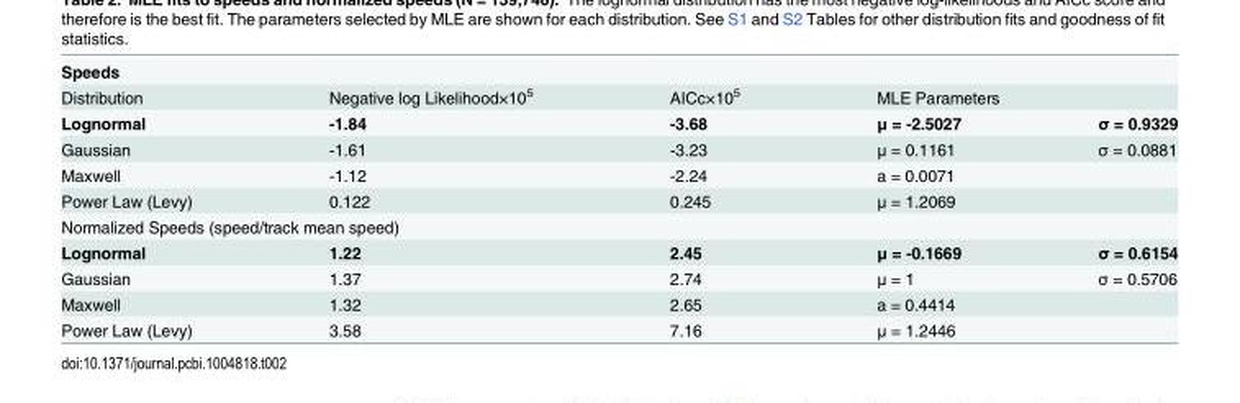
<table><tbody><tr><td colspan="5">Speeds</td></tr><tr><td>Distribution</td><td>Negative log Likelihood×10<sup>5</sup></td><td>AICc×10<sup>5</sup></td><td colspan="2">MLE Parameters</td></tr><tr><td>Lognormal</td><td>-1.84</td><td>-3.68</td><td>μ = -2.5027</td><td>σ = 0.9329</td></tr><tr><td>Gaussian</td><td>-1.61</td><td>-3.23</td><td>μ = 0.1161</td><td>σ = 0.0881</td></tr><tr><td>Maxwell</td><td>-1.12</td><td>-2.24</td><td>a = 0.0071</td><td></td></tr><tr><td>Power Law (Levy)</td><td>0.122</td><td>0.245</td><td>μ = 1.2069</td><td></td></tr><tr><td colspan="5">Normalized Speeds (speed/track mean speed)</td></tr><tr><td>Lognormal</td><td>1.22</td><td>2.45</td><td>μ = -0.1669</td><td>σ = 0.6154</td></tr><tr><td>Gaussian</td><td>1.37</td><td>2.74</td><td>μ = 1</td><td>σ = 0.5706</td></tr><tr><td>Maxwell</td><td>1.32</td><td>2.65</td><td>a = 0.4414</td><td></td></tr><tr><td>Power Law (Levy)</td><td>3.58</td><td>7.16</td><td>μ = 1.2446</td><td></td></tr></tbody></table>